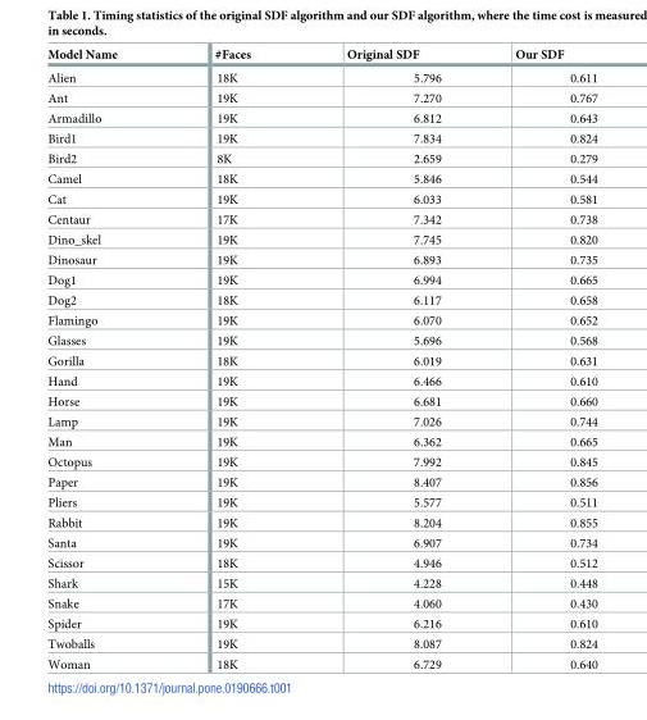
<table><thead><tr><td>Model Name</td><td>#Faces</td><td>Original SDF</td><td>Our SDF</td></tr></thead><tbody><tr><td>Alien</td><td>18K</td><td>5.796</td><td>0.611</td></tr><tr><td>Ant</td><td>19K</td><td>7.270</td><td>0.767</td></tr><tr><td>Armadillo</td><td>19K</td><td>6.812</td><td>0.643</td></tr><tr><td>Bird1</td><td>19K</td><td>7.834</td><td>0.824</td></tr><tr><td>Bird2</td><td>8K</td><td>2.659</td><td>0.279</td></tr><tr><td>Camel</td><td>18K</td><td>5.846</td><td>0.544</td></tr><tr><td>Cat</td><td>19K</td><td>6.033</td><td>0.581</td></tr><tr><td>Centaur</td><td>17K</td><td>7.342</td><td>0.738</td></tr><tr><td>Dino_skel</td><td>19K</td><td>7.745</td><td>0.820</td></tr><tr><td>Dinosaur</td><td>19K</td><td>6.893</td><td>0.735</td></tr><tr><td>Dog1</td><td>19K</td><td>6.994</td><td>0.665</td></tr><tr><td>Dog2</td><td>18K</td><td>6.117</td><td>0.658</td></tr><tr><td>Flamingo</td><td>19K</td><td>6.070</td><td>0.652</td></tr><tr><td>Glasses</td><td>19K</td><td>5.696</td><td>0.568</td></tr><tr><td>Gorilla</td><td>18K</td><td>6.019</td><td>0.631</td></tr><tr><td>Hand</td><td>19K</td><td>6.466</td><td>0.610</td></tr><tr><td>Horse</td><td>19K</td><td>6.681</td><td>0.660</td></tr><tr><td>Lamp</td><td>19K</td><td>7.026</td><td>0.744</td></tr><tr><td>Man</td><td>19K</td><td>6.362</td><td>0.665</td></tr><tr><td>Octopus</td><td>19K</td><td>7.992</td><td>0.845</td></tr><tr><td>Paper</td><td>19K</td><td>8.407</td><td>0.856</td></tr><tr><td>Pliers</td><td>19K</td><td>5.577</td><td>0.511</td></tr><tr><td>Rabbit</td><td>19K</td><td>8.204</td><td>0.855</td></tr><tr><td>Santa</td><td>19K</td><td>6.907</td><td>0.734</td></tr><tr><td>Scissor</td><td>18K</td><td>4.946</td><td>0.512</td></tr><tr><td>Shark</td><td>15K</td><td>4.228</td><td>0.448</td></tr><tr><td>Snake</td><td>17K</td><td>4.060</td><td>0.430</td></tr><tr><td>Spider</td><td>19K</td><td>6.216</td><td>0.610</td></tr><tr><td>Twoballs</td><td>19K</td><td>8.087</td><td>0.824</td></tr><tr><td>Woman</td><td>18K</td><td>6.729</td><td>0.640</td></tr></tbody></table>